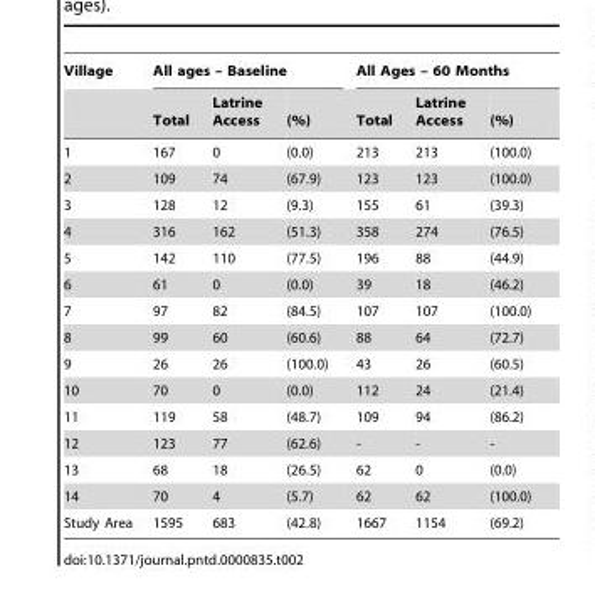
<table><thead><tr><td rowspan="2">Village</td><td colspan="3">All ages – Baseline</td><td colspan="3">All Ages – 60 Months</td></tr><tr><td>Total</td><td>Latrine Access</td><td>(%)</td><td>Total</td><td>Latrine Access</td><td>(%)</td></tr></thead><tbody><tr><td>1</td><td>167</td><td>0</td><td>(0.0)</td><td>213</td><td>213</td><td>(100.0)</td></tr><tr><td>2</td><td>109</td><td>74</td><td>(67.9)</td><td>123</td><td>123</td><td>(100.0)</td></tr><tr><td>3</td><td>128</td><td>12</td><td>(9.3)</td><td>155</td><td>61</td><td>(39.3)</td></tr><tr><td>4</td><td>316</td><td>162</td><td>(51.3)</td><td>358</td><td>274</td><td>(76.5)</td></tr><tr><td>5</td><td>142</td><td>110</td><td>(77.5)</td><td>196</td><td>88</td><td>(44.9)</td></tr><tr><td>6</td><td>61</td><td>0</td><td>(0.0)</td><td>39</td><td>18</td><td>(46.2)</td></tr><tr><td>7</td><td>97</td><td>82</td><td>(84.5)</td><td>107</td><td>107</td><td>(100.0)</td></tr><tr><td>8</td><td>99</td><td>60</td><td>(60.6)</td><td>88</td><td>64</td><td>(72.7)</td></tr><tr><td>9</td><td>26</td><td>26</td><td>(100.0)</td><td>43</td><td>26</td><td>(60.5)</td></tr><tr><td>10</td><td>70</td><td>0</td><td>(0.0)</td><td>112</td><td>24</td><td>(21.4)</td></tr><tr><td>11</td><td>119</td><td>58</td><td>(48.7)</td><td>109</td><td>94</td><td>(86.2)</td></tr><tr><td>12</td><td>123</td><td>77</td><td>(62.6)</td><td>-</td><td>-</td><td>-</td></tr><tr><td>13</td><td>68</td><td>18</td><td>(26.5)</td><td>62</td><td>0</td><td>(0.0)</td></tr><tr><td>14</td><td>70</td><td>4</td><td>(5.7)</td><td>62</td><td>62</td><td>(100.0)</td></tr><tr><td>Study Area</td><td>1595</td><td>683</td><td>(42.8)</td><td>1667</td><td>1154</td><td>(69.2)</td></tr></tbody></table>